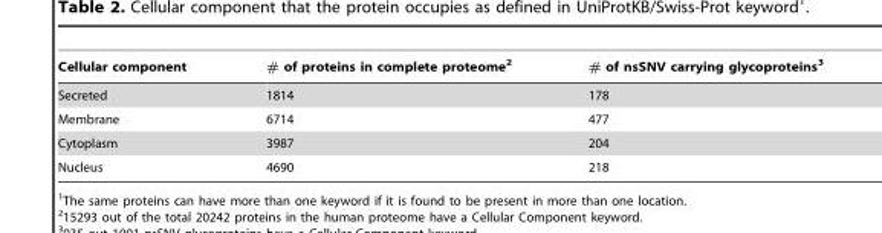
<table><thead><tr><td>Cellular component</td><td># of proteins in complete proteome<sup>2</sup></td><td># of nsSNV carrying glycoproteins<sup>3</sup></td></tr></thead><tbody><tr><td>Secreted</td><td>1814</td><td>178</td></tr><tr><td>Membrane</td><td>6714</td><td>477</td></tr><tr><td>Cytoplasm</td><td>3987</td><td>204</td></tr><tr><td>Nucleus</td><td>4690</td><td>218</td></tr></tbody></table>